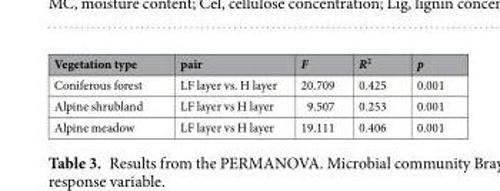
<table><thead><tr><td>Vegetation type</td><td>pair</td><td>F</td><td>R<sup>2</sup></td><td>p</td></tr></thead><tbody><tr><td>Coniferous forest</td><td>LF layer vs. H layer</td><td>20.709</td><td>0.425</td><td>0.001</td></tr><tr><td>Alpine shrubland</td><td>LF layer vs H layer</td><td>9.507</td><td>0.253</td><td>0.001</td></tr><tr><td>Alpine meadow</td><td>LF layer vs H layer</td><td>19.111</td><td>0.406</td><td>0.001</td></tr></tbody></table>